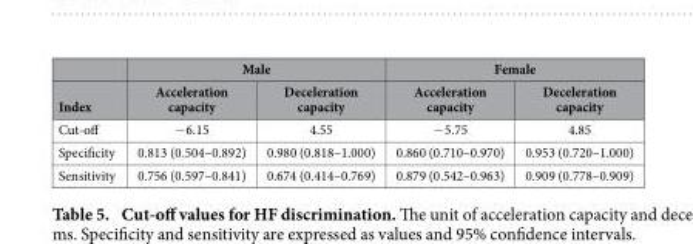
<table><thead><tr><td rowspan="2">Index</td><td colspan="2">Male</td><td colspan="2">Female</td></tr><tr><td>Acceleration capacity</td><td>Deceleration capacity</td><td>Acceleration capacity</td><td>Deceleration capacity</td></tr></thead><tbody><tr><td>Cut-off</td><td>− 6.15</td><td>4.55</td><td>− 5.75</td><td>4.85</td></tr><tr><td>Specificity</td><td>0.813 (0.504–0.892)</td><td>0.980 (0.818–1.000)</td><td>0.860 (0.710–0.970)</td><td>0.953 (0.720–1.000)</td></tr><tr><td>Sensitivity</td><td>0.756 (0.597–0.841)</td><td>0.674 (0.414–0.769)</td><td>0.879 (0.542–0.963)</td><td>0.909 (0.778–0.909)</td></tr></tbody></table>